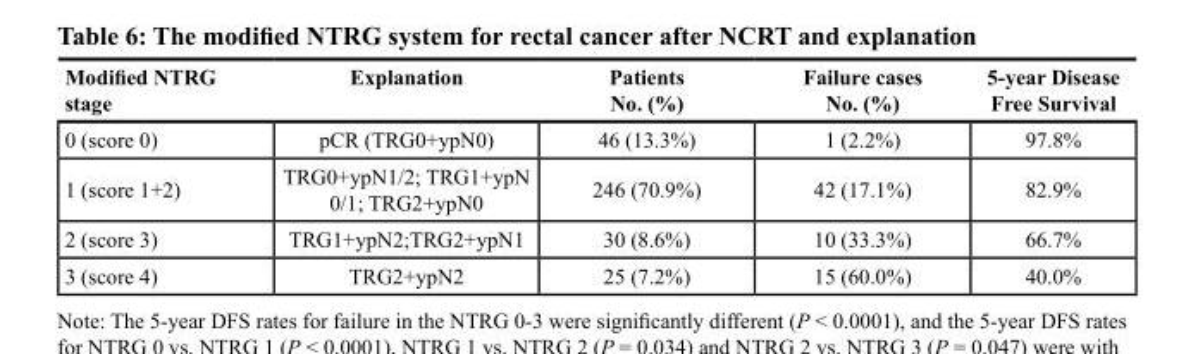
<table><thead><tr><td>Modified NTRG stage</td><td>Explanation</td><td>Patients No. (%)</td><td>Failure cases No. (%)</td><td>5-year Disease Free Survival</td></tr></thead><tbody><tr><td>0 (score 0)</td><td>pCR (TRG0+ypN0)</td><td>46 (13.3%)</td><td>1 (2.2%)</td><td>97.8%</td></tr><tr><td>1 (score 1+2)</td><td>TRG0+ypN1/2; TRG1+ypN 0/1; TRG2+ypN0</td><td>246 (70.9%)</td><td>42 (17.1%)</td><td>82.9%</td></tr><tr><td>2 (score 3)</td><td>TRG1+ypN2;TRG2+ypN1</td><td>30 (8.6%)</td><td>10 (33.3%)</td><td>66.7%</td></tr><tr><td>3 (score 4)</td><td>TRG2+ypN2</td><td>25 (7.2%)</td><td>15 (60.0%)</td><td>40.0%</td></tr></tbody></table>